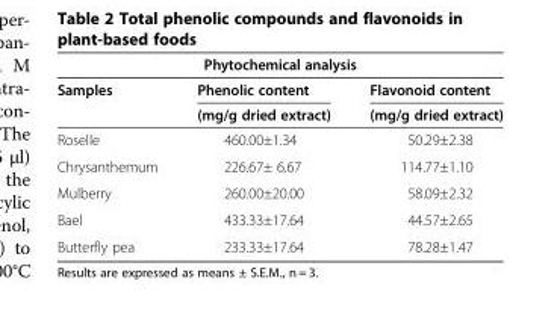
<table><thead><tr><td colspan="3">Phytochemical analysis</td></tr><tr><td rowspan="2">Samples</td><td rowspan="2">Phenolic content (mg/g dried extract)</td><td rowspan="2">Flavonoid content (mg/g dried extract)</td></tr><tr></tr></thead><tbody><tr><td>Roselle</td><td>460.00±1.34</td><td>50.29±2.38</td></tr><tr><td>Chrysanthemum</td><td>226.67± 6.67</td><td>114.77±1.10</td></tr><tr><td>Mulberry</td><td>260.00±20.00</td><td>58.09±2.32</td></tr><tr><td>Bael</td><td>433.33±17.64</td><td>44.57±2.65</td></tr><tr><td>Butterfly pea</td><td>233.33±17.64</td><td>78.28±1.47</td></tr></tbody></table>